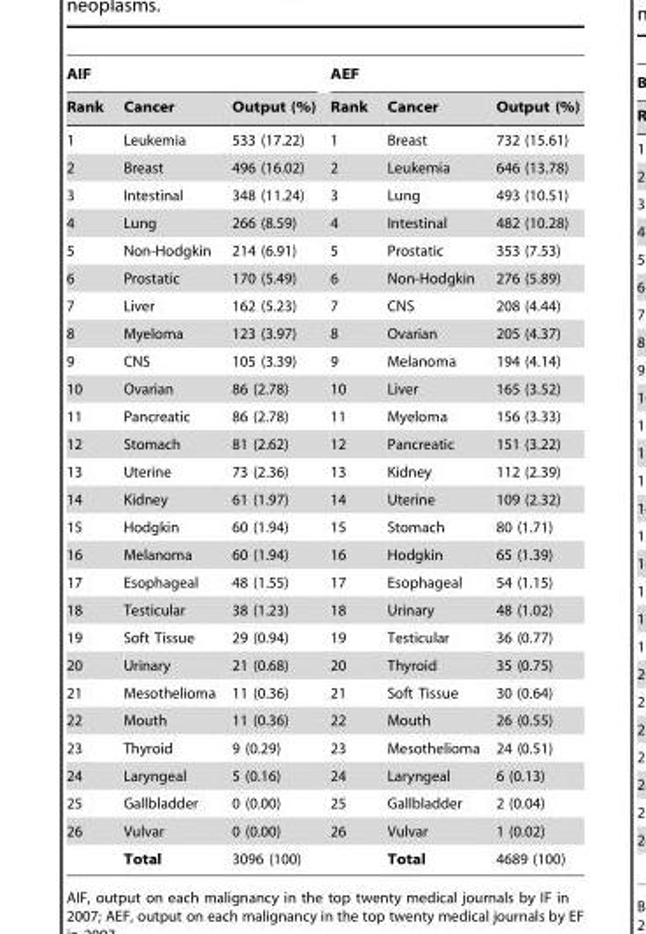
<table><thead><tr><td colspan="3">AIF</td><td colspan="3">AEF</td></tr><tr><td>Rank</td><td>Cancer</td><td>Output (%)</td><td>Rank</td><td>Cancer</td><td>Output (%)</td></tr></thead><tbody><tr><td>1</td><td>Leukemia</td><td>533 (17.22)</td><td>1</td><td>Breast</td><td>732 (15.61)</td></tr><tr><td>2</td><td>Breast</td><td>496 (16.02)</td><td>2</td><td>Leukemia</td><td>646 (13.78)</td></tr><tr><td>3</td><td>Intestinal</td><td>348 (11.24)</td><td>3</td><td>Lung</td><td>493 (10.51)</td></tr><tr><td>4</td><td>Lung</td><td>266 (8.59)</td><td>4</td><td>Intestinal</td><td>482 (10.28)</td></tr><tr><td>5</td><td>Non-Hodgkin</td><td>214 (6.91)</td><td>5</td><td>Prostatic</td><td>353 (7.53)</td></tr><tr><td>6</td><td>Prostatic</td><td>170 (5.49)</td><td>6</td><td>Non-Hodgkin</td><td>276 (5.89)</td></tr><tr><td>7</td><td>Liver</td><td>162 (5.23)</td><td>7</td><td>CNS</td><td>208 (4.44)</td></tr><tr><td>8</td><td>Myeloma</td><td>123 (3.97)</td><td>8</td><td>Ovarian</td><td>205 (4.37)</td></tr><tr><td>9</td><td>CNS</td><td>105 (3.39)</td><td>9</td><td>Melanoma</td><td>194 (4.14)</td></tr><tr><td>10</td><td>Ovarian</td><td>86 (2.78)</td><td>10</td><td>Liver</td><td>165 (3.52)</td></tr><tr><td>11</td><td>Pancreatic</td><td>86 (2.78)</td><td>11</td><td>Myeloma</td><td>156 (3.33)</td></tr><tr><td>12</td><td>Stomach</td><td>81 (2.62)</td><td>12</td><td>Pancreatic</td><td>151 (3.22)</td></tr><tr><td>13</td><td>Uterine</td><td>73 (2.36)</td><td>13</td><td>Kidney</td><td>112 (2.39)</td></tr><tr><td>14</td><td>Kidney</td><td>61 (1.97)</td><td>14</td><td>Uterine</td><td>109 (2.32)</td></tr><tr><td>15</td><td>Hodgkin</td><td>60 (1.94)</td><td>15</td><td>Stomach</td><td>80 (1.71)</td></tr><tr><td>16</td><td>Melanoma</td><td>60 (1.94)</td><td>16</td><td>Hodgkin</td><td>65 (1.39)</td></tr><tr><td>17</td><td>Esophageal</td><td>48 (1.55)</td><td>17</td><td>Esophageal</td><td>54 (1.15)</td></tr><tr><td>18</td><td>Testicular</td><td>38 (1.23)</td><td>18</td><td>Urinary</td><td>48 (1.02)</td></tr><tr><td>19</td><td>Soft Tissue</td><td>29 (0.94)</td><td>19</td><td>Testicular</td><td>36 (0.77)</td></tr><tr><td>20</td><td>Urinary</td><td>21 (0.68)</td><td>20</td><td>Thyroid</td><td>35 (0.75)</td></tr><tr><td>21</td><td>Mesothelioma</td><td>11 (0.36)</td><td>21</td><td>Soft Tissue</td><td>30 (0.64)</td></tr><tr><td>22</td><td>Mouth</td><td>11 (0.36)</td><td>22</td><td>Mouth</td><td>26 (0.55)</td></tr><tr><td>23</td><td>Thyroid</td><td>9 (0.29)</td><td>23</td><td>Mesothelioma</td><td>24 (0.51)</td></tr><tr><td>24</td><td>Laryngeal</td><td>5 (0.16)</td><td>24</td><td>Laryngeal</td><td>6 (0.13)</td></tr><tr><td>25</td><td>Gallbladder</td><td>0 (0.00)</td><td>25</td><td>Gallbladder</td><td>2 (0.04)</td></tr><tr><td rowspan="2">26</td><td>Vulvar</td><td>0 (0.00)</td><td>26</td><td>Vulvar</td><td>1 (0.02)</td></tr><tr><td>Total</td><td>3096 (100)</td><td></td><td>Total</td><td>4689 (100)</td></tr></tbody></table>